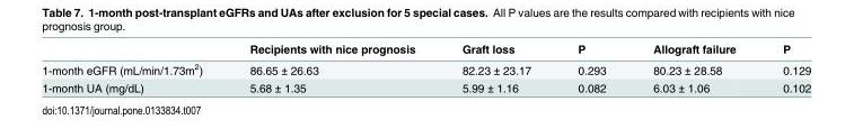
<table><thead><tr><td></td><td>Recipients with nice prognosis</td><td>Graft loss</td><td>P</td><td>Allograft failure</td><td>P</td></tr></thead><tbody><tr><td>1-month eGFR (mL/min/1.73m<sup>2</sup>)</td><td>86.65 ± 26.63</td><td>82.23 ± 23.17</td><td>0.293</td><td>80.23 ± 28.58</td><td>0.129</td></tr><tr><td>1-month UA (mg/dL)</td><td>5.68 ± 1.35</td><td>5.99 ± 1.16</td><td>0.082</td><td>6.03 ± 1.06</td><td>0.102</td></tr></tbody></table>